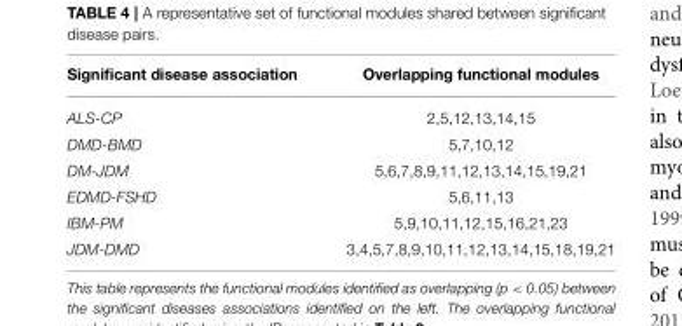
<table><thead><tr><td>Significant disease association</td><td>Overlapping functional modules</td></tr></thead><tbody><tr><td>ALS-CP</td><td>2,5,12,13,14,15</td></tr><tr><td>DMD-BMD</td><td>5,7,10,12</td></tr><tr><td>DM-JDM</td><td>5,6,7,8,9,11,12,13,14,15,19,21</td></tr><tr><td>EDMD-FSHD</td><td>5,6,11,13</td></tr><tr><td>IBM-PM</td><td>5,9,10,11,12,15,16,21,23</td></tr><tr><td>JDM-DMD</td><td>3,4,5,7,8,9,10,11,12,13,14,15,18,19,21</td></tr></tbody></table>